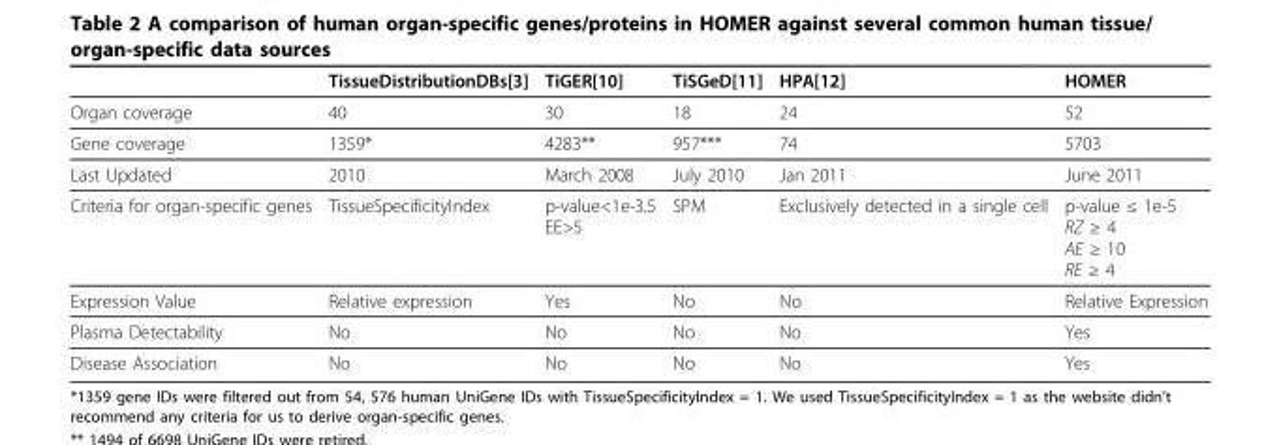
<table><thead><tr><td></td><td>TissueDistributionDBs[3]</td><td>TiGER[10]</td><td>TiSGeD[11]</td><td>HPA[12]</td><td>HOMER</td></tr></thead><tbody><tr><td>Organ coverage</td><td>40</td><td>30</td><td>18</td><td>24</td><td>52</td></tr><tr><td>Gene coverage</td><td>1359*</td><td>4283**</td><td>957***</td><td>74</td><td>5703</td></tr><tr><td>Last Updated</td><td>2010</td><td>March 2008</td><td>July 2010</td><td>Jan 2011</td><td>June 2011</td></tr><tr><td>Criteria for organ-specific genes</td><td>TissueSpecificityIndex</td><td>p-value&lt;1e-3.5 EE&gt;5</td><td>SPM</td><td>Exclusively detected in a single cell</td><td>p-value ≤ 1e-5 RZ ≥ 4 AE ≥ 10 RE ≥ 4</td></tr><tr><td>Expression Value</td><td>Relative expression</td><td>Yes</td><td>No</td><td>No</td><td>Relative Expression</td></tr><tr><td>Plasma Detectability</td><td>No</td><td>No</td><td>No</td><td>No</td><td>Yes</td></tr><tr><td>Disease Association</td><td>No</td><td>No</td><td>No</td><td>No</td><td>Yes</td></tr></tbody></table>